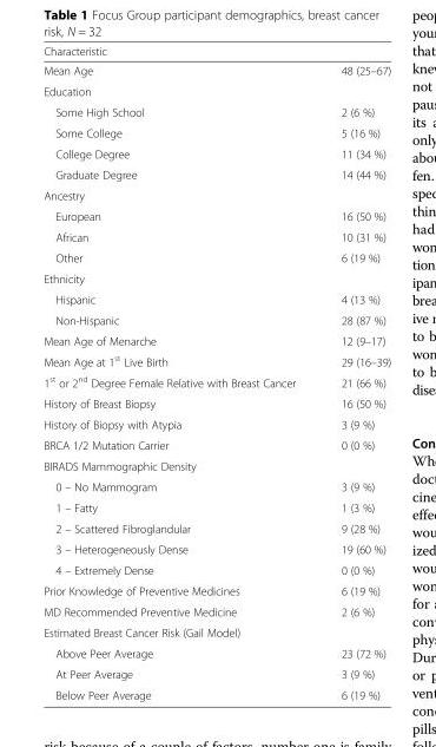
<table><thead><tr><td>Characteristic</td><td></td></tr></thead><tbody><tr><td>Mean Age</td><td>48 (25–67)</td></tr><tr><td colspan="2">Education</td></tr><tr><td>Some High School</td><td>2 (6 %)</td></tr><tr><td>Some College</td><td>5 (16 %)</td></tr><tr><td>College Degree</td><td>11 (34 %)</td></tr><tr><td>Graduate Degree</td><td>14 (44 %)</td></tr><tr><td colspan="2">Ancestry</td></tr><tr><td>European</td><td>16 (50 %)</td></tr><tr><td>African</td><td>10 (31 %)</td></tr><tr><td>Other</td><td>6 (19 %)</td></tr><tr><td colspan="2">Ethnicity</td></tr><tr><td>Hispanic</td><td>4 (13 %)</td></tr><tr><td>Non-Hispanic</td><td>28 (87 %)</td></tr><tr><td>Mean Age of Menarche</td><td>12 (9–17)</td></tr><tr><td>Mean Age at 1<sup>st</sup> Live Birth</td><td>29 (16–39)</td></tr><tr><td>1<sup>st</sup> or 2<sup>nd</sup> Degree Female Relative with Breast Cancer</td><td>21 (66 %)</td></tr><tr><td>History of Breast Biopsy</td><td>16 (50 %)</td></tr><tr><td>History of Biopsy with Atypia</td><td>3 (9 %)</td></tr><tr><td>BRCA 1/2 Mutation Carrier</td><td>0 (0 %)</td></tr><tr><td colspan="2">BIRADS Mammographic Density</td></tr><tr><td>0 – No Mammogram</td><td>3 (9 %)</td></tr><tr><td>1 – Fatty</td><td>1 (3 %)</td></tr><tr><td>2 – Scattered Fibroglandular</td><td>9 (28 %)</td></tr><tr><td>3 – Heterogeneously Dense</td><td>19 (60 %)</td></tr><tr><td>4 – Extremely Dense</td><td>0 (0 %)</td></tr><tr><td>Prior Knowledge of Preventive Medicines</td><td>6 (19 %)</td></tr><tr><td>MD Recommended Preventive Medicine</td><td>2 (6 %)</td></tr><tr><td colspan="2">Estimated Breast Cancer Risk (Gail Model)</td></tr><tr><td>Above Peer Average</td><td>23 (72 %)</td></tr><tr><td>At Peer Average</td><td>3 (9 %)</td></tr><tr><td>Below Peer Average</td><td>6 (19 %)</td></tr></tbody></table>